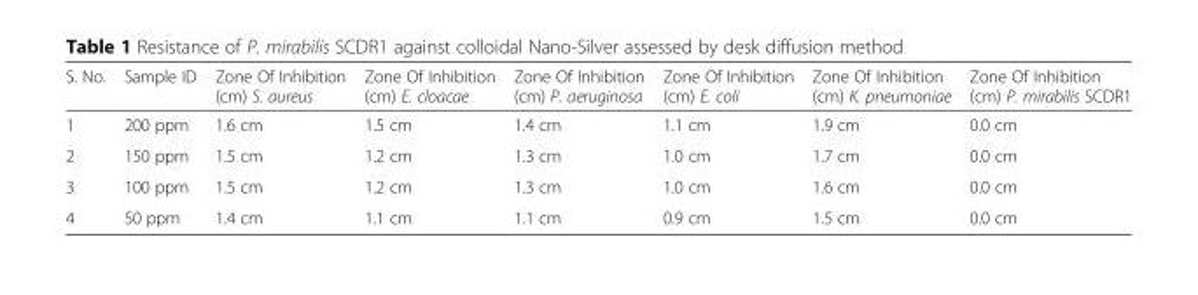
<table><thead><tr><td>S. No.</td><td>Sample ID</td><td>Zone Of Inhibition (cm) S. aureus</td><td>Zone Of Inhibition (cm) E. cloacae</td><td>Zone Of Inhibition (cm) P. aeruginosa</td><td>Zone Of Inhibition (cm) E. coli</td><td>Zone Of Inhibition (cm) K. pneumoniae</td><td>Zone Of Inhibition (cm) P. mirabilis SCDR1</td></tr></thead><tbody><tr><td>1</td><td>200 ppm</td><td>1.6 cm</td><td>1.5 cm</td><td>1.4 cm</td><td>1.1 cm</td><td>1.9 cm</td><td>0.0 cm</td></tr><tr><td>2</td><td>150 ppm</td><td>1.5 cm</td><td>1.2 cm</td><td>1.3 cm</td><td>1.0 cm</td><td>1.7 cm</td><td>0.0 cm</td></tr><tr><td>3</td><td>100 ppm</td><td>1.5 cm</td><td>1.2 cm</td><td>1.3 cm</td><td>1.0 cm</td><td>1.6 cm</td><td>0.0 cm</td></tr><tr><td>4</td><td>50 ppm</td><td>1.4 cm</td><td>1.1 cm</td><td>1.1 cm</td><td>0.9 cm</td><td>1.5 cm</td><td>0.0 cm</td></tr></tbody></table>